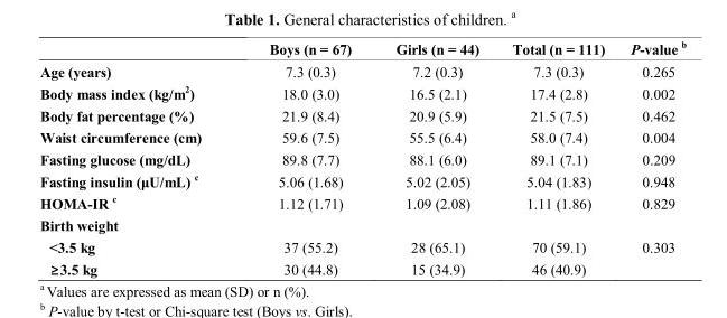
<table><thead><tr><td></td><td>Boys (n = 67)</td><td>Girls (n = 44)</td><td>Total (n = 111)</td><td>P-value <sup>b</sup></td></tr></thead><tbody><tr><td>Age (years)</td><td>7.3 (0.3)</td><td>7.2 (0.3)</td><td>7.3 (0.3)</td><td>0.265</td></tr><tr><td>Body mass index (kg/m<sup>2</sup>)</td><td>18.0 (3.0)</td><td>16.5 (2.1)</td><td>17.4 (2.8)</td><td>0.002</td></tr><tr><td>Body fat percentage (%)</td><td>21.9 (8.4)</td><td>20.9 (5.9)</td><td>21.5 (7.5)</td><td>0.462</td></tr><tr><td>Waist circumference (cm)</td><td>59.6 (7.5)</td><td>55.5 (6.4)</td><td>58.0 (7.4)</td><td>0.004</td></tr><tr><td>Fasting glucose (mg/dL)</td><td>89.8 (7.7)</td><td>88.1 (6.0)</td><td>89.1 (7.1)</td><td>0.209</td></tr><tr><td>Fasting insulin (μU/mL) <sup>c</sup></td><td>5.06 (1.68)</td><td>5.02 (2.05)</td><td>5.04 (1.83)</td><td>0.948</td></tr><tr><td>HOMA-IR <sup>c</sup></td><td>1.12 (1.71)</td><td>1.09 (2.08)</td><td>1.11 (1.86)</td><td>0.829</td></tr><tr><td colspan="5">Birth weight</td></tr><tr><td>&lt;3.5 kg</td><td>37 (55.2)</td><td>28 (65.1)</td><td>70 (59.1)</td><td>0.303</td></tr><tr><td>≥3.5 kg</td><td>30 (44.8)</td><td>15 (34.9)</td><td>46 (40.9)</td><td></td></tr></tbody></table>